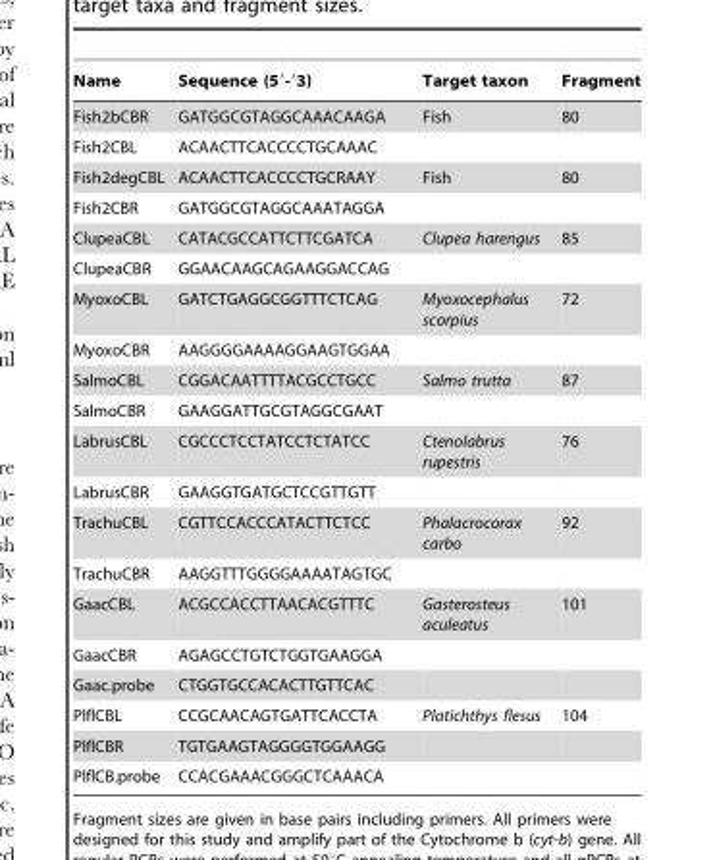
<table><thead><tr><td>Name</td><td>Sequence (5′-′3)</td><td>Target taxon</td><td>Fragment</td></tr></thead><tbody><tr><td>Fish2bCBR</td><td>GATGGCGTAGGCAAACAAGA</td><td>Fish</td><td>80</td></tr><tr><td>Fish2CBL</td><td>ACAACTTCACCCCTGCAAAC</td><td></td><td></td></tr><tr><td>Fish2degCBL</td><td>ACAACTTCACCCCTGCRAAY</td><td>Fish</td><td>80</td></tr><tr><td>Fish2CBR</td><td>GATGGCGTAGGCAAATAGGA</td><td></td><td></td></tr><tr><td>ClupeaCBL</td><td>CATACGCCATTCTTCGATCA</td><td>Clupea harengus</td><td>85</td></tr><tr><td>ClupeaCBR</td><td>GGAACAAGCAGAAGGACCAG</td><td></td><td></td></tr><tr><td>MyoxoCBL</td><td>GATCTGAGGCGGTTTCTCAG</td><td>Myoxocephalus scorpius</td><td>72</td></tr><tr><td>MyoxoCBR</td><td>AAGGGGAAAAGGAAGTGGAA</td><td></td><td></td></tr><tr><td>SalmoCBL</td><td>CGGACAATTTTACGCCTGCC</td><td>Salmo trutta</td><td>87</td></tr><tr><td>SalmoCBR</td><td>GAAGGATTGCGTAGGCGAAT</td><td></td><td></td></tr><tr><td>LabrusCBL</td><td>CGCCCTCCTATCCTCTATCC</td><td>Ctenolabrus rupestris</td><td>76</td></tr><tr><td>LabrusCBR</td><td>GAAGGTGATGCTCCGTTGTT</td><td></td><td></td></tr><tr><td>TrachuCBL</td><td>CGTTCCACCCATACTTCTCC</td><td>Phalacrocorax carbo</td><td>92</td></tr><tr><td>TrachuCBR</td><td>AAGGTTTGGGGAAAATAGTGC</td><td></td><td></td></tr><tr><td>GaacCBL</td><td>ACGCCACCTTAACACGTTTC</td><td>Gasterosteus aculeatus</td><td>101</td></tr><tr><td>GaacCBR</td><td>AGAGCCTGTCTGGTGAAGGA</td><td></td><td></td></tr><tr><td>Gaac.probe</td><td>CTGGTGCCACACTTGTTCAC</td><td></td><td></td></tr><tr><td>PlflCBL</td><td>CCGCAACAGTGATTCACCTA</td><td>Platichthys flesus</td><td>104</td></tr><tr><td>PlflCBR</td><td>TGTGAAGTAGGGGTGGAAGG</td><td></td><td></td></tr><tr><td>PlflCB.probe</td><td>CCACGAAACGGGCTCAAACA</td><td></td><td></td></tr></tbody></table>